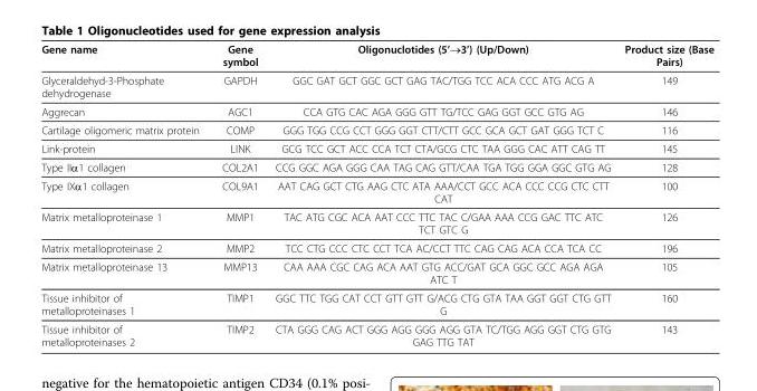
<table><thead><tr><td>Gene name</td><td>Gene symbol</td><td>Oligonuclotides (5’→3’) (Up/Down)</td><td>Product size (Base Pairs)</td></tr></thead><tbody><tr><td>Glyceraldehyd-3-Phosphate dehydrogenase</td><td>GAPDH</td><td>GGC GAT GCT GGC GCT GAG TAC/TGG TCC ACA CCC ATG ACG A</td><td>149</td></tr><tr><td>Aggrecan</td><td>AGC1</td><td>CCA GTG CAC AGA GGG GTT TG/TCC GAG GGT GCC GTG AG</td><td>146</td></tr><tr><td>Cartilage oligomeric matrix protein</td><td>COMP</td><td>GGG TGG CCG CCT GGG GGT CTT/CTT GCC GCA GCT GAT GGG TCT C</td><td>116</td></tr><tr><td>Link-protein</td><td>LINK</td><td>GCG TCC GCT ACC CCA TCT CTA/GCG CTC TAA GGG CAC ATT CAG TT</td><td>145</td></tr><tr><td>Type IIα1 collagen</td><td>COL2A1</td><td>CCG GGC AGA GGG CAA TAG CAG GTT/CAA TGA TGG GGA GGC GTG AG</td><td>128</td></tr><tr><td>Type IXα1 collagen</td><td>COL9A1</td><td>AAT CAG GCT CTG AAG CTC ATA AAA/CCT GCC ACA CCC CCG CTC CTT CAT</td><td>100</td></tr><tr><td>Matrix metalloproteinase 1</td><td>MMP1</td><td>TAC ATG CGC ACA AAT CCC TTC TAC C/GAA AAA CCG GAC TTC ATC TCT GTC G</td><td>126</td></tr><tr><td>Matrix metalloproteinase 2</td><td>MMP2</td><td>TCC CTG CCC CTC CCT TCA AC/CCT TTC CAG CAG ACA CCA TCA CC</td><td>196</td></tr><tr><td>Matrix metalloproteinase 13</td><td>MMP13</td><td>CAA AAA CGC CAG ACA AAT GTG ACC/GAT GCA GGC GCC AGA AGA ATC T</td><td>105</td></tr><tr><td>Tissue inhibitor of metalloproteinases 1</td><td>TIMP1</td><td>GGC TTC TGG CAT CCT GTT GTT G/ACG CTG GTA TAA GGT GGT CTG GTT G</td><td>160</td></tr><tr><td>Tissue inhibitor of metalloproteinases 2</td><td>TIMP2</td><td>CTA GGG CAG ACT GGG AGG GGG AGG GTA TC/TGG AGG GGT CTG GTG GAG TTG TAT</td><td>143</td></tr></tbody></table>